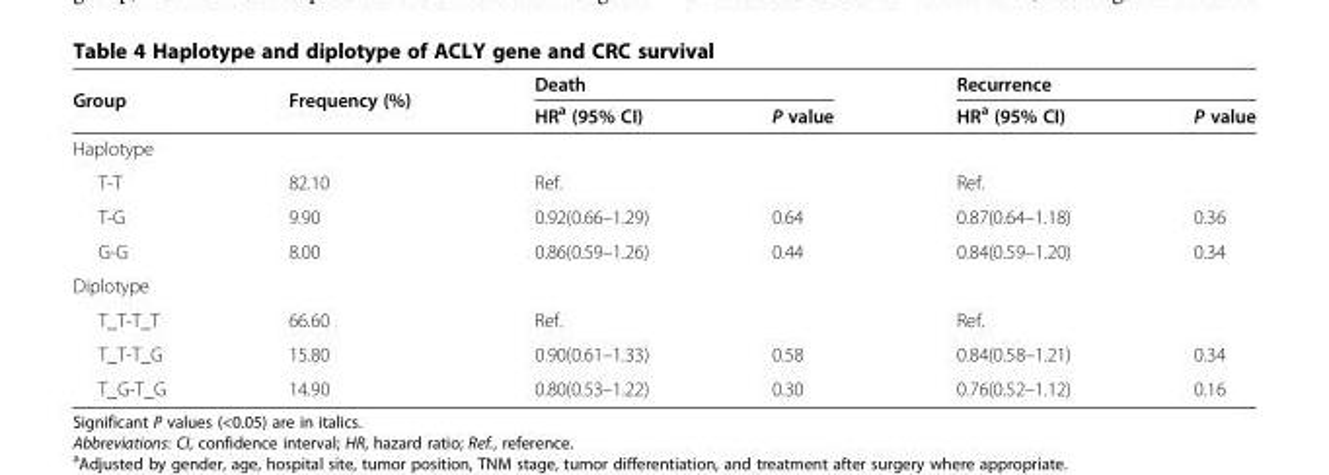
<table><thead><tr><td rowspan="2">Group</td><td rowspan="2">Frequency (%)</td><td colspan="2">Death</td><td colspan="2">Recurrence</td></tr><tr><td>HR<sup>a</sup> (95% CI)</td><td>P value</td><td>HR<sup>a</sup> (95% CI)</td><td>P value</td></tr></thead><tbody><tr><td colspan="6">Haplotype</td></tr><tr><td>T-T</td><td>82.10</td><td>Ref.</td><td></td><td>Ref.</td><td></td></tr><tr><td>T-G</td><td>9.90</td><td>0.92(0.66–1.29)</td><td>0.64</td><td>0.87(0.64–1.18)</td><td>0.36</td></tr><tr><td>G-G</td><td>8.00</td><td>0.86(0.59–1.26)</td><td>0.44</td><td>0.84(0.59–1.20)</td><td>0.34</td></tr><tr><td colspan="6">Diplotype</td></tr><tr><td>T_T-T_T</td><td>66.60</td><td>Ref.</td><td></td><td>Ref.</td><td></td></tr><tr><td>T_T-T_G</td><td>15.80</td><td>0.90(0.61–1.33)</td><td>0.58</td><td>0.84(0.58–1.21)</td><td>0.34</td></tr><tr><td>T_G-T_G</td><td>14.90</td><td>0.80(0.53–1.22)</td><td>0.30</td><td>0.76(0.52–1.12)</td><td>0.16</td></tr></tbody></table>